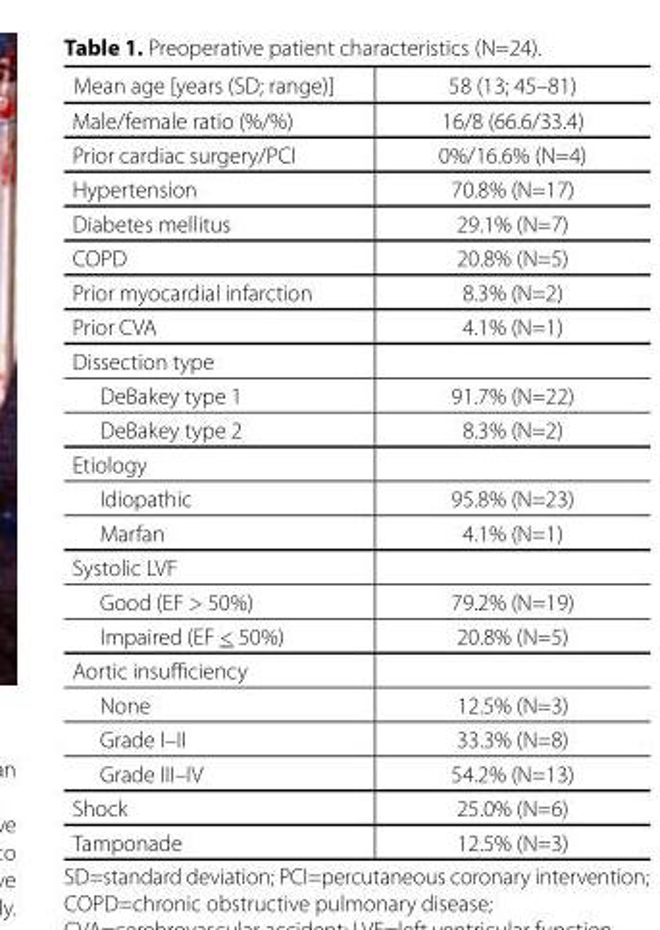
<table><tbody><tr><td>Mean age [years (SD; range)]</td><td>58 (13; 45–81)</td></tr><tr><td>Male/female ratio (%/%)</td><td>16/8 (66.6/33.4)</td></tr><tr><td>Prior cardiac surgery/PCI</td><td>0%/16.6% (N=4)</td></tr><tr><td>Hypertension</td><td>70.8% (N=17)</td></tr><tr><td>Diabetes mellitus</td><td>29.1% (N=7)</td></tr><tr><td>COPD</td><td>20.8% (N=5)</td></tr><tr><td>Prior myocardial infarction</td><td>8.3% (N=2)</td></tr><tr><td>Prior CVA</td><td>4.1% (N=1)</td></tr><tr><td colspan="2">Dissection type</td></tr><tr><td>DeBakey type 1</td><td>91.7% (N=22)</td></tr><tr><td>DeBakey type 2</td><td>8.3% (N=2)</td></tr><tr><td colspan="2">Etiology</td></tr><tr><td>Idiopathic</td><td>95.8% (N=23)</td></tr><tr><td>Marfan</td><td>4.1% (N=1)</td></tr><tr><td colspan="2">Systolic LVF</td></tr><tr><td>Good (EF &gt; 50%)</td><td>79.2% (N=19)</td></tr><tr><td>Impaired (EF &lt; 50%)</td><td>20.8% (N=5)</td></tr><tr><td colspan="2">Aortic insufficiency</td></tr><tr><td>None</td><td>12.5% (N=3)</td></tr><tr><td>Grade I–II</td><td>33.3% (N=8)</td></tr><tr><td>Grade III–IV</td><td>54.2% (N=13)</td></tr><tr><td>Shock</td><td>25.0% (N=6)</td></tr><tr><td>Tamponade</td><td>12.5% (N=3)</td></tr></tbody></table>